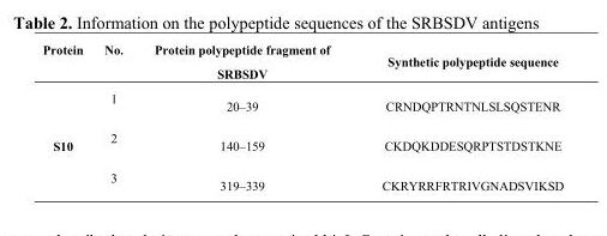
<table><thead><tr><td>Protein</td><td>No.</td><td>Protein polypeptide fragment of SRBSDV</td><td>Synthetic polypeptide sequence</td></tr></thead><tbody><tr><td rowspan="3">S10</td><td>1</td><td>20–39</td><td>CRNDQPTRNTNLSLSQSTENR</td></tr><tr><td>2</td><td>140–159</td><td>CKDQKDDESQRPTSTDSTKNE</td></tr><tr><td>3</td><td>319–339</td><td>CKRYRRFRTRIVGNADSVIKSD</td></tr></tbody></table>